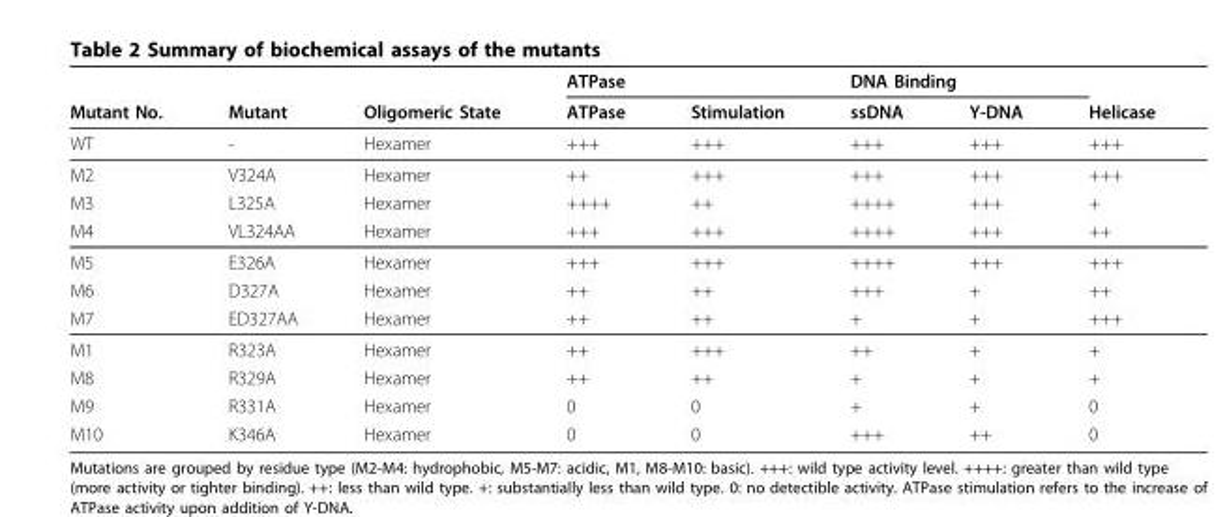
<table><thead><tr><td rowspan="2">Mutant No.</td><td rowspan="2">Mutant</td><td rowspan="2">Oligomeric State</td><td colspan="2">ATPase</td><td colspan="2">DNA Binding</td><td rowspan="2">Helicase</td></tr><tr><td>ATPase</td><td>Stimulation</td><td>ssDNA</td><td>Y-DNA</td></tr></thead><tbody><tr><td>WT</td><td>-</td><td>Hexamer</td><td>+++</td><td>+++</td><td>+++</td><td>+++</td><td>+++</td></tr><tr><td>M2</td><td>V324A</td><td>Hexamer</td><td>++</td><td>+++</td><td>+++</td><td>+++</td><td>+++</td></tr><tr><td>M3</td><td>L325A</td><td>Hexamer</td><td>++++</td><td>++</td><td>++++</td><td>+++</td><td>+</td></tr><tr><td>M4</td><td>VL324AA</td><td>Hexamer</td><td>+++</td><td>+++</td><td>++++</td><td>+++</td><td>++</td></tr><tr><td>M5</td><td>E326A</td><td>Hexamer</td><td>+++</td><td>+++</td><td>++++</td><td>+++</td><td>+++</td></tr><tr><td>M6</td><td>D327A</td><td>Hexamer</td><td>++</td><td>++</td><td>+++</td><td>+</td><td>++</td></tr><tr><td>M7</td><td>ED327AA</td><td>Hexamer</td><td>++</td><td>++</td><td>+</td><td>+</td><td>+++</td></tr><tr><td>M1</td><td>R323A</td><td>Hexamer</td><td>++</td><td>+++</td><td>++</td><td>+</td><td>+</td></tr><tr><td>M8</td><td>R329A</td><td>Hexamer</td><td>++</td><td>++</td><td>+</td><td>+</td><td>+</td></tr><tr><td>M9</td><td>R331A</td><td>Hexamer</td><td>0</td><td>0</td><td>+</td><td>+</td><td>0</td></tr><tr><td>M10</td><td>K346A</td><td>Hexamer</td><td>0</td><td>0</td><td>+++</td><td>++</td><td>0</td></tr></tbody></table>